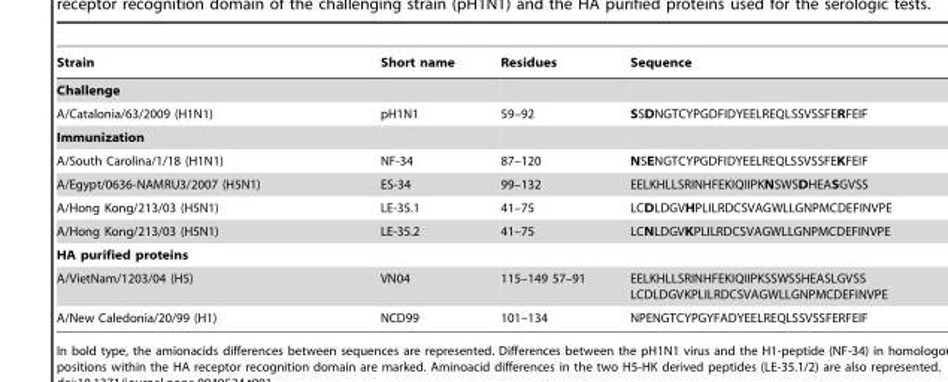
<table><thead><tr><td>Strain</td><td>Short name</td><td>Residues</td><td>Sequence</td></tr></thead><tbody><tr><td colspan="4">Challenge</td></tr><tr><td>A/Catalonia/63/2009 (H1N1)</td><td>pH1N1</td><td>59–92</td><td>SSDNGTCYPGDFIDYEELREQLSSVSSFERFEIF</td></tr><tr><td colspan="4">Immunization</td></tr><tr><td>A/South Carolina/1/18 (H1N1)</td><td>NF-34</td><td>87–120</td><td>NSENGTCYPGDFIDYEELREQLSSVSSFEKFEIF</td></tr><tr><td>A/Egypt/0636-NAMRU3/2007 (H5N1)</td><td>ES-34</td><td>99–132</td><td>EELKHLLSRINHFEKIQIIPKNSWSDHEASGVSS</td></tr><tr><td>A/Hong Kong/213/03 (H5N1)</td><td>LE-35.1</td><td>41–75</td><td>LCDLDGVHPLILRDCSVAGWLLGNPMCDEFINVPE</td></tr><tr><td>A/Hong Kong/213/03 (H5N1)</td><td>LE-35.2</td><td>41–75</td><td>LCNLDGVKPLILRDCSVAGWLLGNPMCDEFINVPE</td></tr><tr><td colspan="4">HA purified proteins</td></tr><tr><td>A/VietNam/1203/04 (H5)</td><td>VN04</td><td>115–149 57–91</td><td>EELKHLLSRINHFEKIQIIPKSSWSSHEASLGVSS LCDLDGVKPLILRDCSVAGWLLGNPMCDEFINVPE</td></tr><tr><td>A/New Caledonia/20/99 (H1)</td><td>NCD99</td><td>101–134</td><td>NPENGTCYPGYFADYEELREQLSSVSSFERFEIF</td></tr></tbody></table>